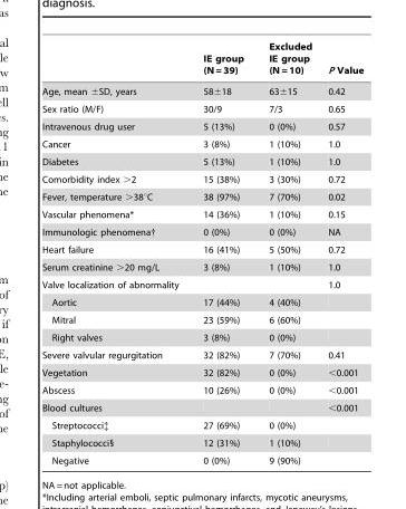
<table><thead><tr><td></td><td>IE group (N = 39)</td><td>Excluded IE group (N = 10)</td><td>P Value</td></tr></thead><tbody><tr><td>Age, mean ±SD, years</td><td>58±18</td><td>63±15</td><td>0.42</td></tr><tr><td>Sex ratio (M/F)</td><td>30/9</td><td>7/3</td><td>0.65</td></tr><tr><td>Intravenous drug user</td><td>5 (13%)</td><td>0 (0%)</td><td>0.57</td></tr><tr><td>Cancer</td><td>3 (8%)</td><td>1 (10%)</td><td>1.0</td></tr><tr><td>Diabetes</td><td>5 (13%)</td><td>1 (10%)</td><td>1.0</td></tr><tr><td>Comorbidity index &gt;2</td><td>15 (38%)</td><td>3 (30%)</td><td>0.72</td></tr><tr><td>Fever, temperature &gt;38°C</td><td>38 (97%)</td><td>7 (70%)</td><td>0.02</td></tr><tr><td>Vascular phenomena*</td><td>14 (36%)</td><td>1 (10%)</td><td>0.15</td></tr><tr><td>Immunologic phenomena†</td><td>0 (0%)</td><td>0 (0%)</td><td>NA</td></tr><tr><td>Heart failure</td><td>16 (41%)</td><td>5 (50%)</td><td>0.72</td></tr><tr><td>Serum creatinine &gt;20 mg/L</td><td>3 (8%)</td><td>1 (10%)</td><td>1.0</td></tr><tr><td>Valve localization of abnormality</td><td></td><td></td><td>1.0</td></tr><tr><td>Aortic</td><td>17 (44%)</td><td>4 (40%)</td><td></td></tr><tr><td>Mitral</td><td>23 (59%)</td><td>6 (60%)</td><td></td></tr><tr><td>Right valves</td><td>3 (8%)</td><td>0 (0%)</td><td></td></tr><tr><td>Severe valvular regurgitation</td><td>32 (82%)</td><td>7 (70%)</td><td>0.41</td></tr><tr><td>Vegetation</td><td>32 (82%)</td><td>0 (0%)</td><td>&lt;0.001</td></tr><tr><td>Abscess</td><td>10 (26%)</td><td>0 (0%)</td><td>&lt;0.001</td></tr><tr><td>Blood cultures</td><td></td><td></td><td>&lt;0.001</td></tr><tr><td>Streptococci‡</td><td>27 (69%)</td><td>0 (0%)</td><td></td></tr><tr><td>Staphylococci§</td><td>12 (31%)</td><td>1 (10%)</td><td></td></tr><tr><td>Negative</td><td>0 (0%)</td><td>9 (90%)</td><td></td></tr></tbody></table>